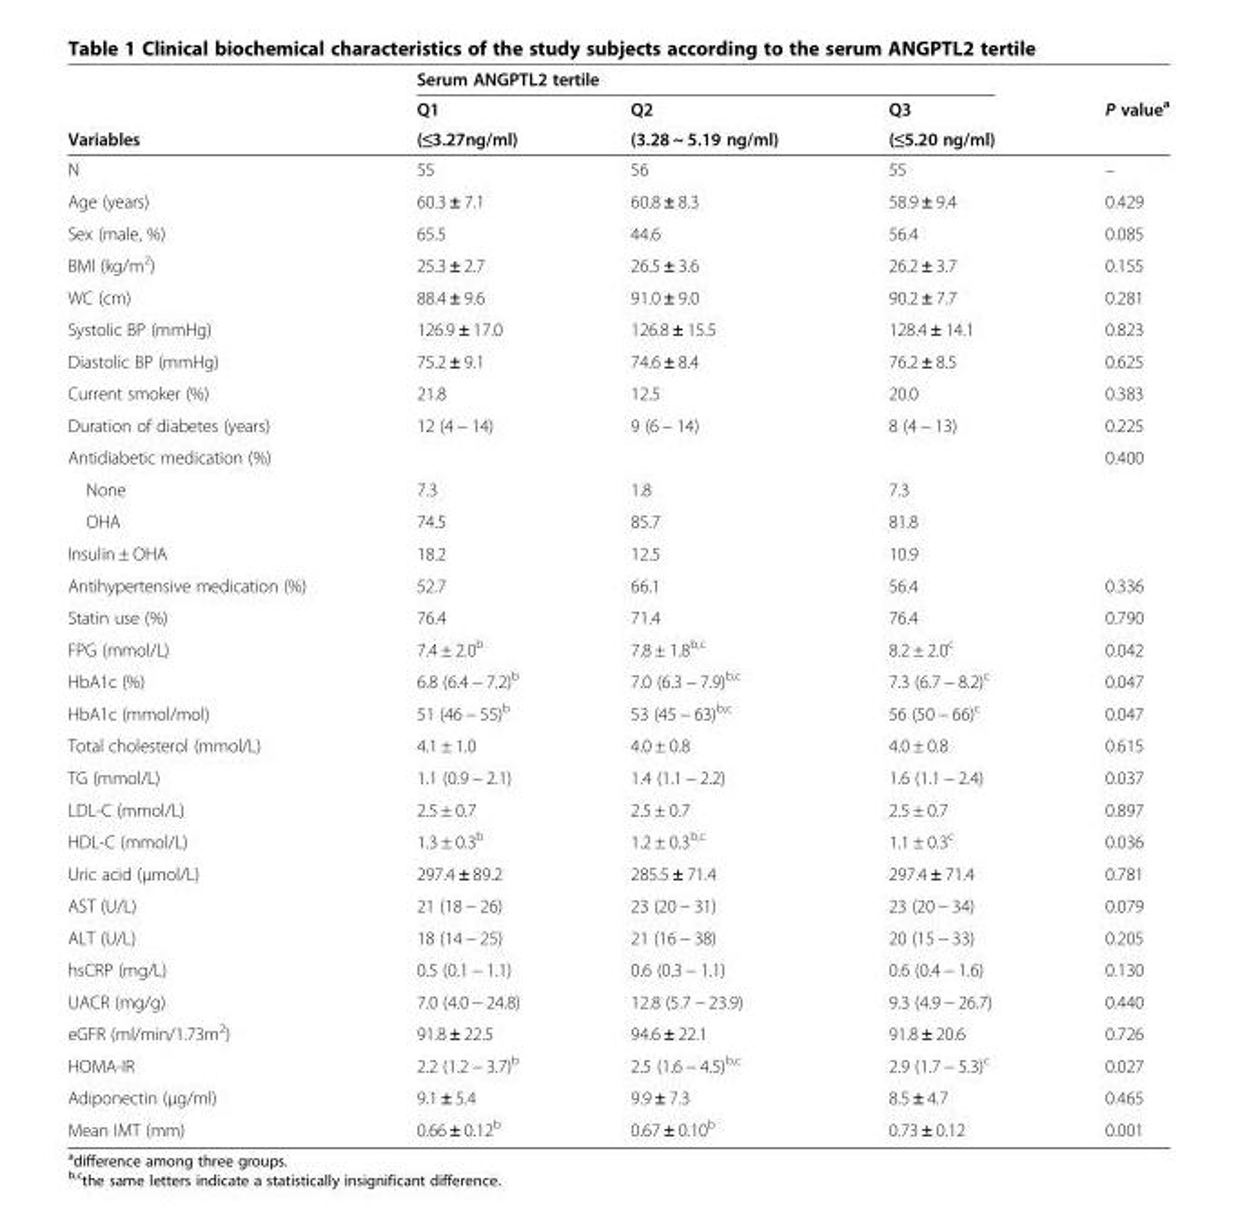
<table><thead><tr><td rowspan="3">Variables</td><td colspan="3">Serum ANGPTL2 tertile</td><td rowspan="3">P value<sup>a</sup></td></tr><tr><td rowspan="2">Q1 (≤3.27ng/ml)</td><td rowspan="2">Q2 (3.28 ~ 5.19 ng/ml)</td><td rowspan="2">Q3 (≤5.20 ng/ml)</td></tr><tr></tr></thead><tbody><tr><td>N</td><td>55</td><td>56</td><td>55</td><td>–</td></tr><tr><td>Age (years)</td><td>60.3 ± 7.1</td><td>60.8 ± 8.3</td><td>58.9 ± 9.4</td><td>0.429</td></tr><tr><td>Sex (male, %)</td><td>65.5</td><td>44.6</td><td>56.4</td><td>0.085</td></tr><tr><td>BMI (kg/m<sup>2</sup>)</td><td>25.3 ± 2.7</td><td>26.5 ± 3.6</td><td>26.2 ± 3.7</td><td>0.155</td></tr><tr><td>WC (cm)</td><td>88.4 ± 9.6</td><td>91.0 ± 9.0</td><td>90.2 ± 7.7</td><td>0.281</td></tr><tr><td>Systolic BP (mmHg)</td><td>126.9 ± 17.0</td><td>126.8 ± 15.5</td><td>128.4 ± 14.1</td><td>0.823</td></tr><tr><td>Diastolic BP (mmHg)</td><td>75.2 ± 9.1</td><td>74.6 ± 8.4</td><td>76.2 ± 8.5</td><td>0.625</td></tr><tr><td>Current smoker (%)</td><td>21.8</td><td>12.5</td><td>20.0</td><td>0.383</td></tr><tr><td>Duration of diabetes (years)</td><td>12 (4 − 14)</td><td>9 (6 − 14)</td><td>8 (4 − 13)</td><td>0.225</td></tr><tr><td>Antidiabetic medication (%)</td><td></td><td></td><td></td><td>0.400</td></tr><tr><td>None</td><td>7.3</td><td>1.8</td><td>7.3</td><td></td></tr><tr><td>OHA</td><td>74.5</td><td>85.7</td><td>81.8</td><td></td></tr><tr><td>Insulin ± OHA</td><td>18.2</td><td>12.5</td><td>10.9</td><td></td></tr><tr><td>Antihypertensive medication (%)</td><td>52.7</td><td>66.1</td><td>56.4</td><td>0.336</td></tr><tr><td>Statin use (%)</td><td>76.4</td><td>71.4</td><td>76.4</td><td>0.790</td></tr><tr><td>FPG (mmol/L)</td><td>7.4 ± 2.0<sup>b</sup></td><td>7.8 ± 1.8<sup>b,c</sup></td><td>8.2 ± 2.0<sup>c</sup></td><td>0.042</td></tr><tr><td>HbA1c (%)</td><td>6.8 (6.4 − 7.2)<sup>b</sup></td><td>7.0 (6.3 − 7.9)<sup>b,c</sup></td><td>7.3 (6.7 − 8.2)<sup>c</sup></td><td>0.047</td></tr><tr><td>HbA1c (mmol/mol)</td><td>51 (46 − 55)<sup>b</sup></td><td>53 (45 − 63)<sup>b,c</sup></td><td>56 (50 − 66)<sup>c</sup></td><td>0.047</td></tr><tr><td>Total cholesterol (mmol/L)</td><td>4.1 ± 1.0</td><td>4.0 ± 0.8</td><td>4.0 ± 0.8</td><td>0.615</td></tr><tr><td>TG (mmol/L)</td><td>1.1 (0.9 − 2.1)</td><td>1.4 (1.1 − 2.2)</td><td>1.6 (1.1 − 2.4)</td><td>0.037</td></tr><tr><td>LDL-C (mmol/L)</td><td>2.5 ± 0.7</td><td>2.5 ± 0.7</td><td>2.5 ± 0.7</td><td>0.897</td></tr><tr><td>HDL-C (mmol/L)</td><td>1.3 ± 0.3<sup>b</sup></td><td>1.2 ± 0.3<sup>b,c</sup></td><td>1.1 ± 0.3<sup>c</sup></td><td>0.036</td></tr><tr><td>Uric acid (μmol/L)</td><td>297.4 ± 89.2</td><td>285.5 ± 71.4</td><td>297.4 ± 71.4</td><td>0.781</td></tr><tr><td>AST (U/L)</td><td>21 (18 − 26)</td><td>23 (20 − 31)</td><td>23 (20 − 34)</td><td>0.079</td></tr><tr><td>ALT (U/L)</td><td>18 (14 − 25)</td><td>21 (16 − 38)</td><td>20 (15 − 33)</td><td>0.205</td></tr><tr><td>hsCRP (mg/L)</td><td>0.5 (0.1 − 1.1)</td><td>0.6 (0.3 − 1.1)</td><td>0.6 (0.4 − 1.6)</td><td>0.130</td></tr><tr><td>UACR (mg/g)</td><td>7.0 (4.0 − 24.8)</td><td>12.8 (5.7 − 23.9)</td><td>9.3 (4.9 − 26.7)</td><td>0.440</td></tr><tr><td>eGFR (ml/min/1.73m<sup>2</sup>)</td><td>91.8 ± 22.5</td><td>94.6 ± 22.1</td><td>91.8 ± 20.6</td><td>0.726</td></tr><tr><td>HOMA-IR</td><td>2.2 (1.2 − 3.7)<sup>b</sup></td><td>2.5 (1.6 − 4.5)<sup>b,c</sup></td><td>2.9 (1.7 − 5.3)<sup>c</sup></td><td>0.027</td></tr><tr><td>Adiponectin (μg/ml)</td><td>9.1 ± 5.4</td><td>9.9 ± 7.3</td><td>8.5 ± 4.7</td><td>0.465</td></tr><tr><td>Mean IMT (mm)</td><td>0.66 ± 0.12<sup>b</sup></td><td>0.67 ± 0.10<sup>b</sup></td><td>0.73 ± 0.12</td><td>0.001</td></tr></tbody></table>